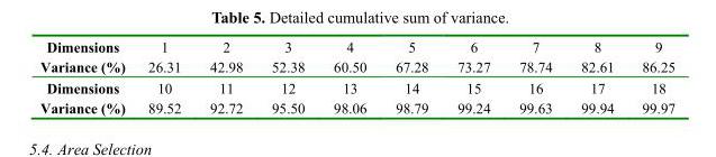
<table><tbody><tr><td>Dimensions</td><td>1</td><td>2</td><td>3</td><td>4</td><td>5</td><td>6</td><td>7</td><td>8</td><td>9</td></tr><tr><td>Variance (%)</td><td>26.31</td><td>42.98</td><td>52.38</td><td>60.50</td><td>67.28</td><td>73.27</td><td>78.74</td><td>82.61</td><td>86.25</td></tr><tr><td>Dimensions</td><td>10</td><td>11</td><td>12</td><td>13</td><td>14</td><td>15</td><td>16</td><td>17</td><td>18</td></tr><tr><td>Variance (%)</td><td>89.52</td><td>92.72</td><td>95.50</td><td>98.06</td><td>98.79</td><td>99.24</td><td>99.63</td><td>99.94</td><td>99.97</td></tr></tbody></table>